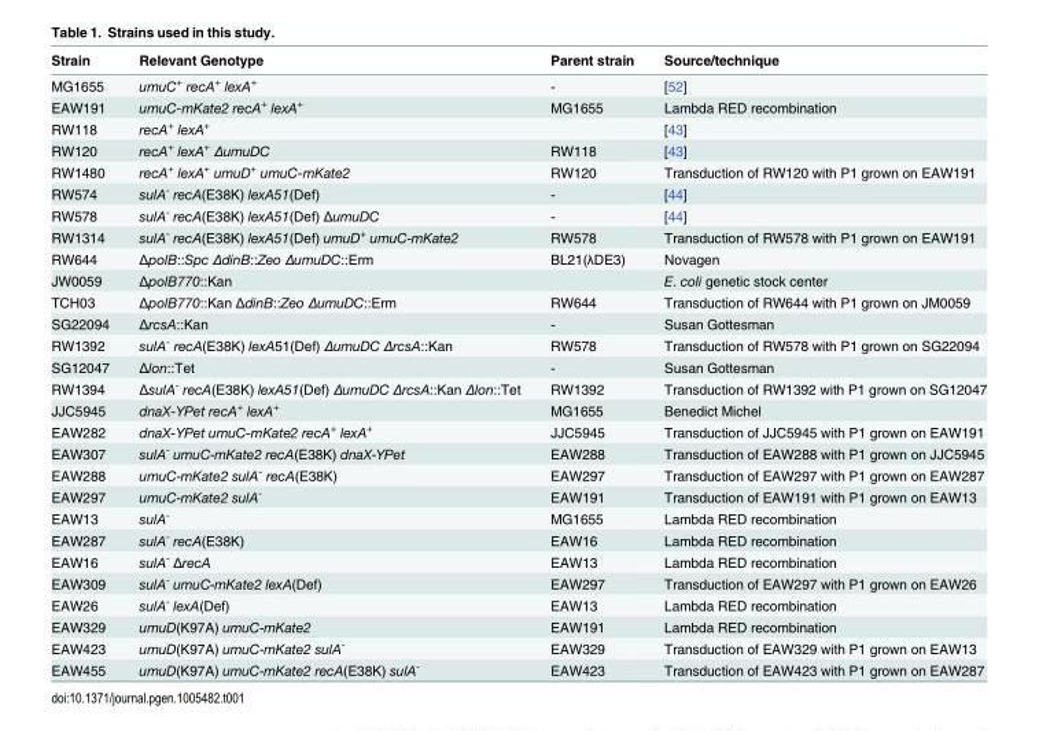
<table><thead><tr><td>Strain</td><td>Relevant Genotype</td><td>Parent strain</td><td>Source/technique</td></tr></thead><tbody><tr><td>MG1655</td><td>umuC<sup>+</sup> recA<sup>+</sup> lexA<sup>+</sup></td><td>-</td><td>[52]</td></tr><tr><td>EAW191</td><td>umuC-mKate2 recA<sup>+</sup> lexA<sup>+</sup></td><td>MG1655</td><td>Lambda RED recombination</td></tr><tr><td>RW118</td><td>recA<sup>+</sup> lexA<sup>+</sup></td><td></td><td>[43]</td></tr><tr><td>RW120</td><td>recA<sup>+</sup> lexA<sup>+</sup> ΔumuDC</td><td>RW118</td><td>[43]</td></tr><tr><td>RW1480</td><td>recA<sup>+</sup> lexA<sup>+</sup> umuD<sup>+</sup> umuC-mKate2</td><td>RW120</td><td>Transduction of RW120 with P1 grown on EAW191</td></tr><tr><td>RW574</td><td>sulA<sup>-</sup> recA(E38K) lexA51(Def)</td><td>-</td><td>[44]</td></tr><tr><td>RW578</td><td>sulA<sup>-</sup> recA(E38K) lexA51(Def) ΔumuDC</td><td>-</td><td>[44]</td></tr><tr><td>RW1314</td><td>sulA<sup>-</sup> recA(E38K) lexA51(Def) umuD<sup>+</sup> umuC-mKate2</td><td>RW578</td><td>Transduction of RW578 with P1 grown on EAW191</td></tr><tr><td>RW644</td><td>ΔpolB::Spc ΔdinB::Zeo ΔumuDC::Erm</td><td>BL21(λDE3)</td><td>Novagen</td></tr><tr><td>JW0059</td><td>ΔpolB770::Kan</td><td></td><td>E. coli genetic stock center</td></tr><tr><td>TCH03</td><td>ΔpolB770::Kan ΔdinB::Zeo ΔumuDC::Erm</td><td>RW644</td><td>Transduction of RW644 with P1 grown on JM0059</td></tr><tr><td>SG22094</td><td>ΔrcsA::Kan</td><td>-</td><td>Susan Gottesman</td></tr><tr><td>RW1392</td><td>sulA<sup>-</sup> recA(E38K) lexA51(Def) ΔumuDC ΔrcsA::Kan</td><td>RW578</td><td>Transduction of RW578 with P1 grown on SG22094</td></tr><tr><td>SG12047</td><td>Δlon::Tet</td><td>-</td><td>Susan Gottesman</td></tr><tr><td>RW1394</td><td>ΔsulA<sup>-</sup> recA(E38K) lexA51(Def) ΔumuDC ΔrcsA::Kan Δlon::Tet</td><td>RW1392</td><td>Transduction of RW1392 with P1 grown on SG12047</td></tr><tr><td>JJC5945</td><td>dnaX-YPet recA<sup>+</sup> lexA<sup>+</sup></td><td>MG1655</td><td>Benedict Michel</td></tr><tr><td>EAW282</td><td>dnaX-YPet umuC-mKate2 recA<sup>+</sup> lexA<sup>+</sup></td><td>JJC5945</td><td>Transduction of JJC5945 with P1 grown on EAW191</td></tr><tr><td>EAW307</td><td>sulA<sup>-</sup> umuC-mKate2 recA(E38K) dnaX-YPet</td><td>EAW288</td><td>Transduction of EAW288 with P1 grown on JJC5945</td></tr><tr><td>EAW288</td><td>umuC-mKate2 sulA<sup>-</sup> recA(E38K)</td><td>EAW297</td><td>Transduction of EAW297 with P1 grown on EAW287</td></tr><tr><td>EAW297</td><td>umuC-mKate2 sulA<sup>-</sup></td><td>EAW191</td><td>Transduction of EAW191 with P1 grown on EAW13</td></tr><tr><td>EAW13</td><td>sulA<sup>-</sup></td><td>MG1655</td><td>Lambda RED recombination</td></tr><tr><td>EAW287</td><td>sulA<sup>-</sup> recA(E38K)</td><td>EAW16</td><td>Lambda RED recombination</td></tr><tr><td>EAW16</td><td>sulA<sup>-</sup> ΔrecA</td><td>EAW13</td><td>Lambda RED recombination</td></tr><tr><td>EAW309</td><td>sulA<sup>-</sup> umuC-mKate2 lexA(Def)</td><td>EAW297</td><td>Transduction of EAW297 with P1 grown on EAW26</td></tr><tr><td>EAW26</td><td>sulA<sup>-</sup> lexA(Def)</td><td>EAW13</td><td>Lambda RED recombination</td></tr><tr><td>EAW329</td><td>umuD(K97A) umuC-mKate2</td><td>EAW191</td><td>Lambda RED recombination</td></tr><tr><td>EAW423</td><td>umuD(K97A) umuC-mKate2 sulA<sup>-</sup></td><td>EAW329</td><td>Transduction of EAW329 with P1 grown on EAW13</td></tr><tr><td>EAW455</td><td>umuD(K97A) umuC-mKate2 recA(E38K) sulA<sup>-</sup></td><td>EAW423</td><td>Transduction of EAW423 with P1 grown on EAW287</td></tr></tbody></table>